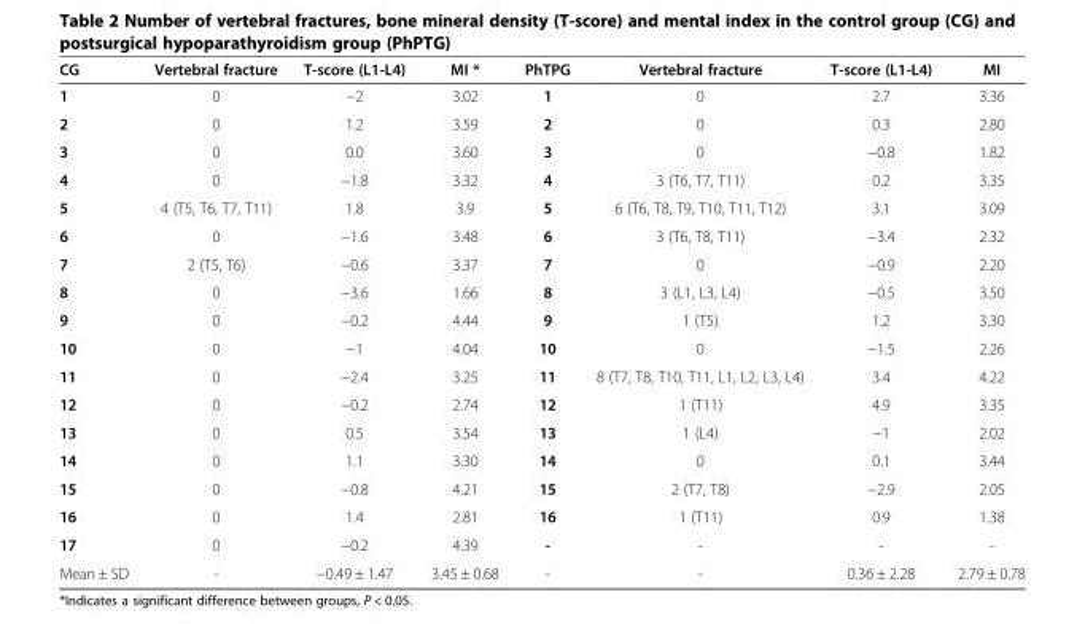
<table><thead><tr><td>CG</td><td>Vertebral fracture</td><td>T-score (L1-L4)</td><td>MI *</td><td>PhTPG</td><td>Vertebral fracture</td><td>T-score (L1-L4)</td><td>MI</td></tr></thead><tbody><tr><td>1</td><td>0</td><td>−2</td><td>3.02</td><td>1</td><td>0</td><td>2.7</td><td>3.36</td></tr><tr><td>2</td><td>0</td><td>1.2</td><td>3.59</td><td>2</td><td>0</td><td>0.3</td><td>2.80</td></tr><tr><td>3</td><td>0</td><td>0.0</td><td>3.60</td><td>3</td><td>0</td><td>−0.8</td><td>1.82</td></tr><tr><td>4</td><td>0</td><td>−1.8</td><td>3.32</td><td>4</td><td>3 (T6, T7, T11)</td><td>0.2</td><td>3.35</td></tr><tr><td>5</td><td>4 (T5, T6, T7, T11)</td><td>1.8</td><td>3.9</td><td>5</td><td>6 (T6, T8, T9, T10, T11, T12)</td><td>3.1</td><td>3.09</td></tr><tr><td>6</td><td>0</td><td>−1.6</td><td>3.48</td><td>6</td><td>3 (T6, T8, T11)</td><td>−3.4</td><td>2.32</td></tr><tr><td>7</td><td>2 (T5, T6)</td><td>−0.6</td><td>3.37</td><td>7</td><td>0</td><td>−0.9</td><td>2.20</td></tr><tr><td>8</td><td>0</td><td>−3.6</td><td>1.66</td><td>8</td><td>3 (L1, L3, L4)</td><td>−0.5</td><td>3.50</td></tr><tr><td>9</td><td>0</td><td>−0.2</td><td>4.44</td><td>9</td><td>1 (T5)</td><td>1.2</td><td>3.30</td></tr><tr><td>10</td><td>0</td><td>−1</td><td>4.04</td><td>10</td><td>0</td><td>−1.5</td><td>2.26</td></tr><tr><td>11</td><td>0</td><td>−2.4</td><td>3.25</td><td>11</td><td>8 (T7, T8, T10, T11, L1, L2, L3, L4)</td><td>3.4</td><td>4.22</td></tr><tr><td>12</td><td>0</td><td>−0.2</td><td>2.74</td><td>12</td><td>1 (T11)</td><td>4.9</td><td>3.35</td></tr><tr><td>13</td><td>0</td><td>0.5</td><td>3.54</td><td>13</td><td>1 (L4)</td><td>−1</td><td>2.02</td></tr><tr><td>14</td><td>0</td><td>1.1</td><td>3.30</td><td>14</td><td>0</td><td>0.1</td><td>3.44</td></tr><tr><td>15</td><td>0</td><td>−0.8</td><td>4.21</td><td>15</td><td>2 (T7, T8)</td><td>−2.9</td><td>2.05</td></tr><tr><td>16</td><td>0</td><td>1.4</td><td>2.81</td><td>16</td><td>1 (T11)</td><td>0.9</td><td>1.38</td></tr><tr><td>17</td><td>0</td><td>−0.2</td><td>4.39</td><td>-</td><td>-</td><td>-</td><td>-</td></tr><tr><td>Mean ± SD</td><td>-</td><td>−0.49 ± 1.47</td><td>3.45 ± 0.68</td><td>-</td><td>-</td><td>0.36 ± 2.28</td><td>2.79 ± 0.78</td></tr></tbody></table>